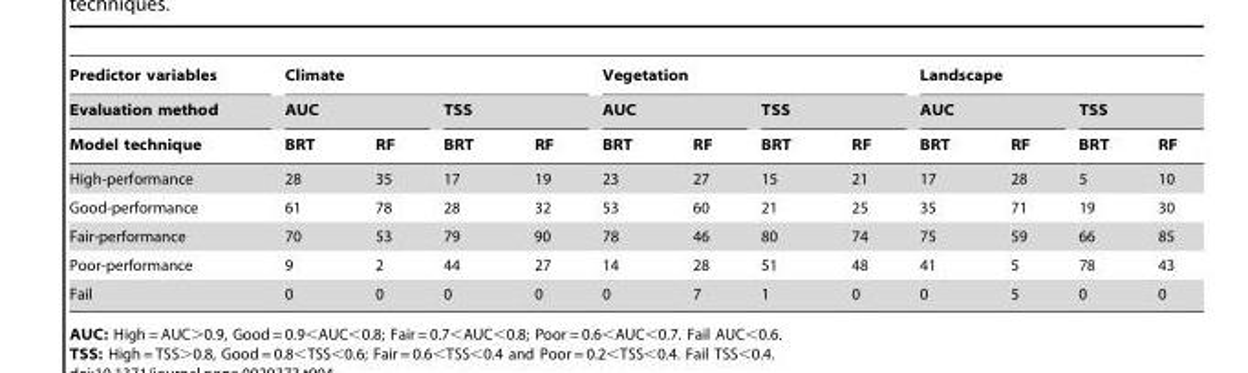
<table><thead><tr><td rowspan="3">Predictor variables Evaluation method Model technique</td><td colspan="4">Climate</td><td colspan="4">Vegetation</td><td colspan="4">Landscape</td></tr><tr><td colspan="2">AUC</td><td colspan="2">TSS</td><td colspan="2">AUC</td><td colspan="2">TSS</td><td colspan="2">AUC</td><td colspan="2">TSS</td></tr><tr><td>BRT</td><td>RF</td><td>BRT</td><td>RF</td><td>BRT</td><td>RF</td><td>BRT</td><td>RF</td><td>BRT</td><td>RF</td><td>BRT</td><td>RF</td></tr></thead><tbody><tr><td>High-performance</td><td>28</td><td>35</td><td>17</td><td>19</td><td>23</td><td>27</td><td>15</td><td>21</td><td>17</td><td>28</td><td>5</td><td>10</td></tr><tr><td>Good-performance</td><td>61</td><td>78</td><td>28</td><td>32</td><td>53</td><td>60</td><td>21</td><td>25</td><td>35</td><td>71</td><td>19</td><td>30</td></tr><tr><td>Fair-performance</td><td>70</td><td>53</td><td>79</td><td>90</td><td>78</td><td>46</td><td>80</td><td>74</td><td>75</td><td>59</td><td>66</td><td>85</td></tr><tr><td>Poor-performance</td><td>9</td><td>2</td><td>44</td><td>27</td><td>14</td><td>28</td><td>51</td><td>48</td><td>41</td><td>5</td><td>78</td><td>43</td></tr><tr><td>Fail</td><td>0</td><td>0</td><td>0</td><td>0</td><td>0</td><td>7</td><td>1</td><td>0</td><td>0</td><td>5</td><td>0</td><td>0</td></tr></tbody></table>